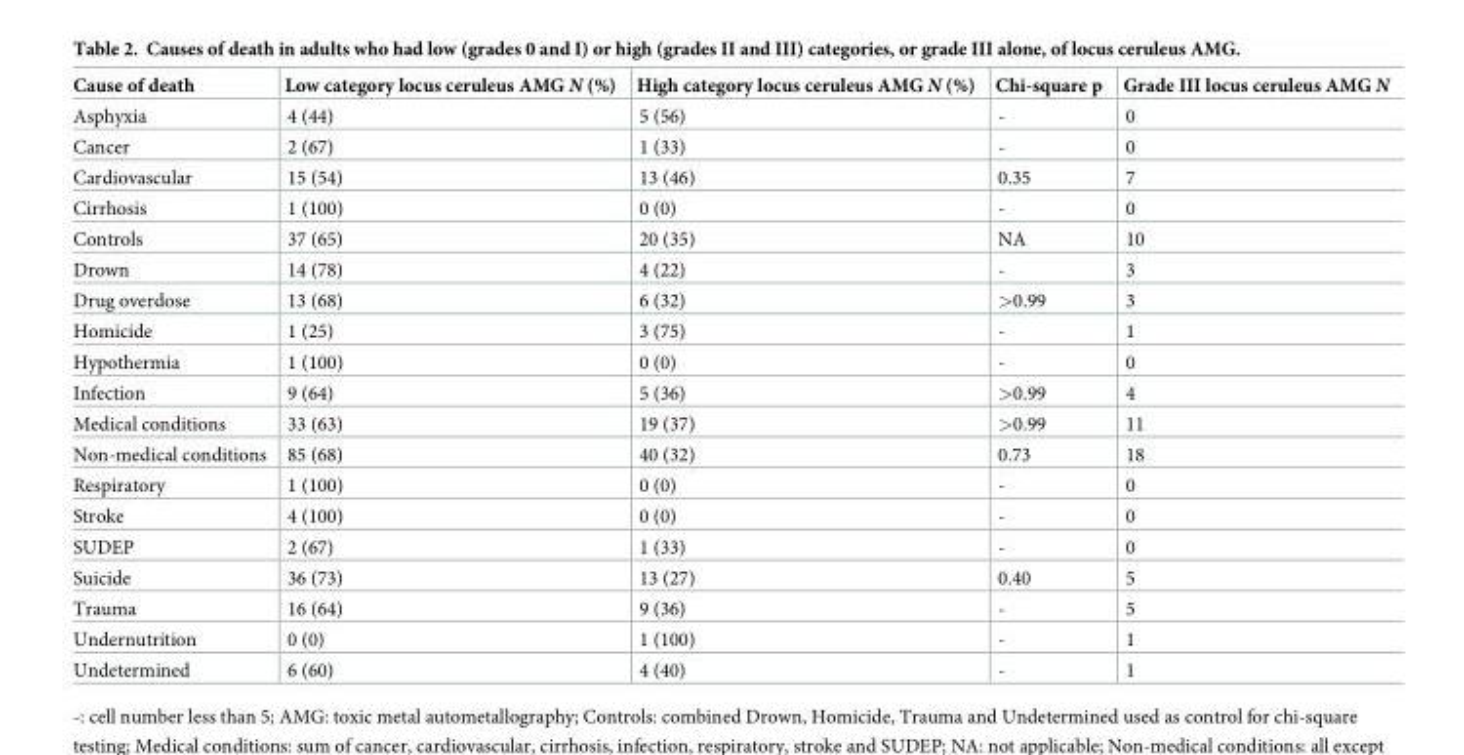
<table><thead><tr><td>Cause of death</td><td>Low category locus ceruleus AMG N (%)</td><td>High category locus ceruleus AMG N (%)</td><td>Chi-square p</td><td>Grade III locus ceruleus AMG N</td></tr></thead><tbody><tr><td>Asphyxia</td><td>4 (44)</td><td>5 (56)</td><td>-</td><td>0</td></tr><tr><td>Cancer</td><td>2 (67)</td><td>1 (33)</td><td>-</td><td>0</td></tr><tr><td>Cardiovascular</td><td>15 (54)</td><td>13 (46)</td><td>0.35</td><td>7</td></tr><tr><td>Cirrhosis</td><td>1 (100)</td><td>0 (0)</td><td>-</td><td>0</td></tr><tr><td>Controls</td><td>37 (65)</td><td>20 (35)</td><td>NA</td><td>10</td></tr><tr><td>Drown</td><td>14 (78)</td><td>4 (22)</td><td>-</td><td>3</td></tr><tr><td>Drug overdose</td><td>13 (68)</td><td>6 (32)</td><td>&gt;0.99</td><td>3</td></tr><tr><td>Homicide</td><td>1 (25)</td><td>3 (75)</td><td>-</td><td>1</td></tr><tr><td>Hypothermia</td><td>1 (100)</td><td>0 (0)</td><td>-</td><td>0</td></tr><tr><td>Infection</td><td>9 (64)</td><td>5 (36)</td><td>&gt;0.99</td><td>4</td></tr><tr><td>Medical conditions</td><td>33 (63)</td><td>19 (37)</td><td>&gt;0.99</td><td>11</td></tr><tr><td>Non-medical conditions</td><td>85 (68)</td><td>40 (32)</td><td>0.73</td><td>18</td></tr><tr><td>Respiratory</td><td>1 (100)</td><td>0 (0)</td><td>-</td><td>0</td></tr><tr><td>Stroke</td><td>4 (100)</td><td>0 (0)</td><td>-</td><td>0</td></tr><tr><td>SUDEP</td><td>2 (67)</td><td>1 (33)</td><td>-</td><td>0</td></tr><tr><td>Suicide</td><td>36 (73)</td><td>13 (27)</td><td>0.40</td><td>5</td></tr><tr><td>Trauma</td><td>16 (64)</td><td>9 (36)</td><td>-</td><td>5</td></tr><tr><td>Undernutrition</td><td>0 (0)</td><td>1 (100)</td><td>-</td><td>1</td></tr><tr><td>Undetermined</td><td>6 (60)</td><td>4 (40)</td><td>-</td><td>1</td></tr></tbody></table>